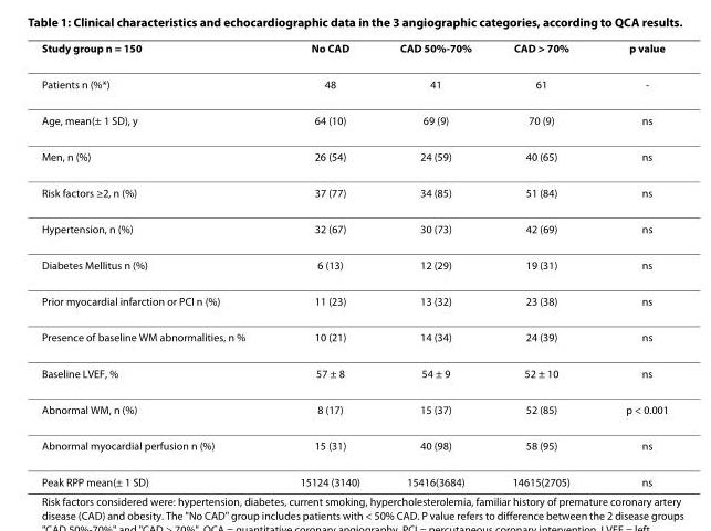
<table><thead><tr><td>Study group n = 150</td><td>No CAD</td><td>CAD 50%-70%</td><td>CAD &gt; 70%</td><td>p value</td></tr></thead><tbody><tr><td>Patients n (%*)</td><td>48</td><td>41</td><td>61</td><td>-</td></tr><tr><td>Age, mean(± 1 SD), y</td><td>64 (10)</td><td>69 (9)</td><td>70 (9)</td><td>ns</td></tr><tr><td>Men, n (%)</td><td>26 (54)</td><td>24 (59)</td><td>40 (65)</td><td>ns</td></tr><tr><td>Risk factors ≥2, n (%)</td><td>37 (77)</td><td>34 (85)</td><td>51 (84)</td><td>ns</td></tr><tr><td>Hypertension, n (%)</td><td>32 (67)</td><td>30 (73)</td><td>42 (69)</td><td>ns</td></tr><tr><td>Diabetes Mellitus n (%)</td><td>6 (13)</td><td>12 (29)</td><td>19 (31)</td><td>ns</td></tr><tr><td>Prior myocardial infarction or PCI n (%)</td><td>11 (23)</td><td>13 (32)</td><td>23 (38)</td><td>ns</td></tr><tr><td>Presence of baseline WM abnormalities, n %</td><td>10 (21)</td><td>14 (34)</td><td>24 (39)</td><td>ns</td></tr><tr><td>Baseline LVEF, %</td><td>57 ± 8</td><td>54 ± 9</td><td>52 ± 10</td><td>ns</td></tr><tr><td>Abnormal WM, n (%)</td><td>8 (17)</td><td>15 (37)</td><td>52 (85)</td><td>p &lt; 0.001</td></tr><tr><td>Abnormal myocardial perfusion n (%)</td><td>15 (31)</td><td>40 (98)</td><td>58 (95)</td><td>ns</td></tr><tr><td>Peak RPP mean(± 1 SD)</td><td>15124 (3140)</td><td>15416(3684)</td><td>14615(2705)</td><td>ns</td></tr></tbody></table>